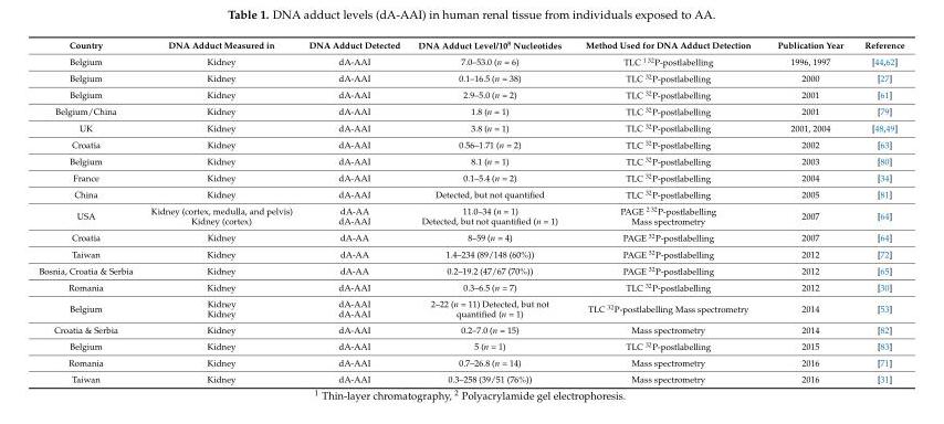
<table><thead><tr><td>Country</td><td>DNA Adduct Measured in</td><td>DNA Adduct Detected</td><td>DNA Adduct Level/10<sup>8</sup> Nucleotides</td><td>Method Used for DNA Adduct Detection</td><td>Publication Year</td><td>Reference</td></tr></thead><tbody><tr><td>Belgium</td><td>Kidney</td><td>dA-AAI</td><td>7.0–53.0 (n = 6)</td><td>TLC <sup>1 32</sup>P-postlabelling</td><td>1996, 1997</td><td>[44,62]</td></tr><tr><td>Belgium</td><td>Kidney</td><td>dA-AAI</td><td>0.1–16.5 (n = 38)</td><td>TLC <sup>32</sup>P-postlabelling</td><td>2000</td><td>[27]</td></tr><tr><td>Belgium</td><td>Kidney</td><td>dA-AAI</td><td>2.9–5.0 (n = 2)</td><td>TLC <sup>32</sup>P-postlabelling</td><td>2001</td><td>[61]</td></tr><tr><td>Belgium/China</td><td>Kidney</td><td>dA-AAI</td><td>1.8 (n = 1)</td><td>TLC <sup>32</sup>P-postlabelling</td><td>2001</td><td>[79]</td></tr><tr><td>UK</td><td>Kidney</td><td>dA-AAI</td><td>3.8 (n = 1)</td><td>TLC <sup>32</sup>P-postlabelling</td><td>2001, 2004</td><td>[48,49]</td></tr><tr><td>Croatia</td><td>Kidney</td><td>dA-AAI</td><td>0.56–1.71 (n = 2)</td><td>TLC <sup>32</sup>P-postlabelling</td><td>2002</td><td>[63]</td></tr><tr><td>Belgium</td><td>Kidney</td><td>dA-AAI</td><td>8.1 (n = 1)</td><td>TLC <sup>32</sup>P-postlabelling</td><td>2003</td><td>[80]</td></tr><tr><td>France</td><td>Kidney</td><td>dA-AAI</td><td>0.1–5.4 (n = 2)</td><td>TLC <sup>32</sup>P-postlabelling</td><td>2004</td><td>[34]</td></tr><tr><td>China</td><td>Kidney</td><td>dA-AAI</td><td>Detected, but not quantified</td><td>TLC <sup>32</sup>P-postlabelling</td><td>2005</td><td>[81]</td></tr><tr><td>USA</td><td>Kidney (cortex, medulla, and pelvis) Kidney (cortex)</td><td>dA-AA dA-AAI</td><td>11.0–34 (n = 1) Detected, but not quantified (n = 1)</td><td>PAGE <sup>2 32</sup>P-postlabelling Mass spectrometry</td><td>2007</td><td>[64]</td></tr><tr><td>Croatia</td><td>Kidney</td><td>dA-AA</td><td>8–59 (n = 4)</td><td>PAGE <sup>32</sup>P-postlabelling</td><td>2007</td><td>[64]</td></tr><tr><td>Taiwan</td><td>Kidney</td><td>dA-AA</td><td>1.4–234 (89/148 (60%))</td><td>PAGE <sup>32</sup>P-postlabelling</td><td>2012</td><td>[72]</td></tr><tr><td>Bosnia, Croatia &amp; Serbia</td><td>Kidney</td><td>dA-AA</td><td>0.2–19.2 (47/67 (70%))</td><td>PAGE <sup>32</sup>P-postlabelling</td><td>2012</td><td>[65]</td></tr><tr><td>Romania</td><td>Kidney</td><td>dA-AAI</td><td>0.3–6.5 (n = 7)</td><td>TLC <sup>32</sup>P-postlabelling</td><td>2012</td><td>[30]</td></tr><tr><td>Belgium</td><td>Kidney Kidney</td><td>dA-AAI dA-AAI</td><td>2–22 (n = 11) Detected, but not quantified (n = 1)</td><td>TLC <sup>32</sup>P-postlabelling Mass spectrometry</td><td>2014</td><td>[53]</td></tr><tr><td>Croatia &amp; Serbia</td><td>Kidney</td><td>dA-AAI</td><td>0.2–7.0 (n = 15)</td><td>Mass spectrometry</td><td>2014</td><td>[82]</td></tr><tr><td>Belgium</td><td>Kidney</td><td>dA-AAI</td><td>5 (n = 1)</td><td>TLC <sup>32</sup>P-postlabelling</td><td>2015</td><td>[83]</td></tr><tr><td>Romania</td><td>Kidney</td><td>dA-AAI</td><td>0.7–26.8 (n = 14)</td><td>Mass spectrometry</td><td>2016</td><td>[71]</td></tr><tr><td>Taiwan</td><td>Kidney</td><td>dA-AAI</td><td>0.3–258 (39/51 (76%))</td><td>Mass spectrometry</td><td>2016</td><td>[31]</td></tr></tbody></table>